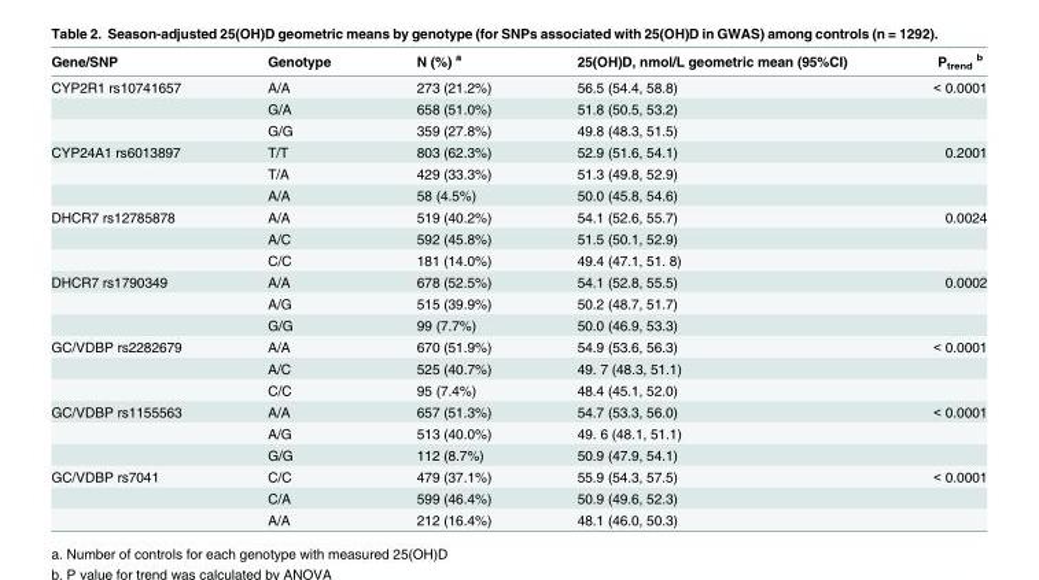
<table><thead><tr><td>Gene/SNP</td><td>Genotype</td><td>N (%) <sup>a</sup></td><td>25(OH)D, nmol/L geometric mean (95%CI)</td><td>P<sub>trend</sub> <sup>b</sup></td></tr></thead><tbody><tr><td rowspan="3">CYP2R1 rs10741657</td><td>A/A</td><td>273 (21.2%)</td><td>56.5 (54.4, 58.8)</td><td>&lt; 0.0001</td></tr><tr><td>G/A</td><td>658 (51.0%)</td><td>51.8 (50.5, 53.2)</td><td></td></tr><tr><td>G/G</td><td>359 (27.8%)</td><td>49.8 (48.3, 51.5)</td><td></td></tr><tr><td rowspan="3">CYP24A1 rs6013897</td><td>T/T</td><td>803 (62.3%)</td><td>52.9 (51.6, 54.1)</td><td>0.2001</td></tr><tr><td>T/A</td><td>429 (33.3%)</td><td>51.3 (49.8, 52.9)</td><td></td></tr><tr><td>A/A</td><td>58 (4.5%)</td><td>50.0 (45.8, 54.6)</td><td></td></tr><tr><td rowspan="3">DHCR7 rs12785878</td><td>A/A</td><td>519 (40.2%)</td><td>54.1 (52.6, 55.7)</td><td>0.0024</td></tr><tr><td>A/C</td><td>592 (45.8%)</td><td>51.5 (50.1, 52.9)</td><td></td></tr><tr><td>C/C</td><td>181 (14.0%)</td><td>49.4 (47.1, 51. 8)</td><td></td></tr><tr><td rowspan="3">DHCR7 rs1790349</td><td>A/A</td><td>678 (52.5%)</td><td>54.1 (52.8, 55.5)</td><td>0.0002</td></tr><tr><td>A/G</td><td>515 (39.9%)</td><td>50.2 (48.7, 51.7)</td><td></td></tr><tr><td>G/G</td><td>99 (7.7%)</td><td>50.0 (46.9, 53.3)</td><td></td></tr><tr><td rowspan="3">GC/VDBP rs2282679</td><td>A/A</td><td>670 (51.9%)</td><td>54.9 (53.6, 56.3)</td><td>&lt; 0.0001</td></tr><tr><td>A/C</td><td>525 (40.7%)</td><td>49. 7 (48.3, 51.1)</td><td></td></tr><tr><td>C/C</td><td>95 (7.4%)</td><td>48.4 (45.1, 52.0)</td><td></td></tr><tr><td rowspan="3">GC/VDBP rs1155563</td><td>A/A</td><td>657 (51.3%)</td><td>54.7 (53.3, 56.0)</td><td>&lt; 0.0001</td></tr><tr><td>A/G</td><td>513 (40.0%)</td><td>49. 6 (48.1, 51.1)</td><td></td></tr><tr><td>G/G</td><td>112 (8.7%)</td><td>50.9 (47.9, 54.1)</td><td></td></tr><tr><td rowspan="3">GC/VDBP rs7041</td><td>C/C</td><td>479 (37.1%)</td><td>55.9 (54.3, 57.5)</td><td>&lt; 0.0001</td></tr><tr><td>C/A</td><td>599 (46.4%)</td><td>50.9 (49.6, 52.3)</td><td></td></tr><tr><td>A/A</td><td>212 (16.4%)</td><td>48.1 (46.0, 50.3)</td><td></td></tr></tbody></table>